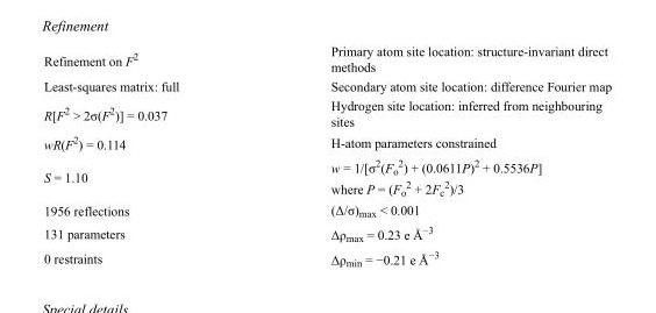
<table><tbody><tr><td>Refinement on F<sup>2</sup></td><td>Primary atom site location: structure-invariant direct methods</td></tr><tr><td>Least-squares matrix: full</td><td>Secondary atom site location: difference Fourier map</td></tr><tr><td>R[F<sup>2</sup> &gt; 2σ(F<sup>2</sup>)] = 0.037</td><td>Hydrogen site location: inferred from neighbouring sites</td></tr><tr><td>wR(F<sup>2</sup>) = 0.114</td><td>H-atom parameters constrained</td></tr><tr><td>S = 1.10</td><td>w = 1/[σ<sup>2</sup>(F<sub>o</sub> <sup>2</sup>) + (0.0611P)<sup>2</sup> + 0.5536P] where P = (F<sub>o</sub> <sup>2</sup> + 2F<sub>c</sub> <sup>2</sup>)/3</td></tr><tr><td>1956 reflections</td><td>(Δ/σ)<sub>max</sub> &lt; 0.001</td></tr><tr><td>131 parameters</td><td>Δρ<sub>max</sub> = 0.23 e Å<sup>−3</sup></td></tr><tr><td>0 restraints</td><td>Δρ<sub>min</sub> = −0.21 e Å<sup>−3</sup></td></tr></tbody></table>